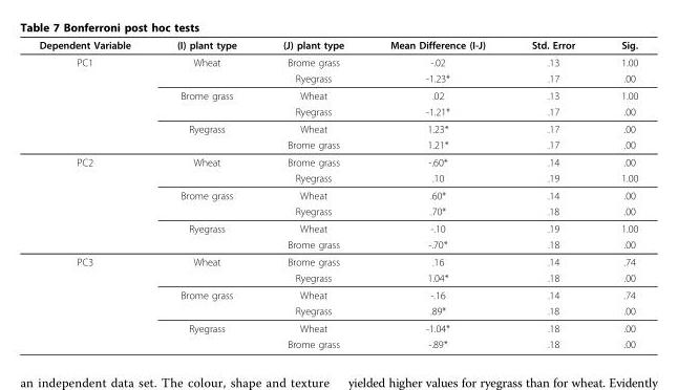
<table><thead><tr><td>Dependent Variable</td><td>(I) plant type</td><td>(J) plant type</td><td>Mean Difference (I-J)</td><td>Std. Error</td><td>Sig.</td></tr></thead><tbody><tr><td rowspan="6">PC1</td><td>Wheat</td><td>Brome grass</td><td>-.02</td><td>.13</td><td>1.00</td></tr><tr><td></td><td>Ryegrass</td><td>-1.23*</td><td>.17</td><td>.00</td></tr><tr><td>Brome grass</td><td>Wheat</td><td>.02</td><td>.13</td><td>1.00</td></tr><tr><td></td><td>Ryegrass</td><td>-1.21*</td><td>.17</td><td>.00</td></tr><tr><td>Ryegrass</td><td>Wheat</td><td>1.23*</td><td>.17</td><td>.00</td></tr><tr><td></td><td>Brome grass</td><td>1.21*</td><td>.17</td><td>.00</td></tr><tr><td rowspan="6">PC2</td><td>Wheat</td><td>Brome grass</td><td>-.60*</td><td>.14</td><td>.00</td></tr><tr><td></td><td>Ryegrass</td><td>.10</td><td>.19</td><td>1.00</td></tr><tr><td>Brome grass</td><td>Wheat</td><td>.60*</td><td>.14</td><td>.00</td></tr><tr><td></td><td>Ryegrass</td><td>.70*</td><td>.18</td><td>.00</td></tr><tr><td>Ryegrass</td><td>Wheat</td><td>-.10</td><td>.19</td><td>1.00</td></tr><tr><td></td><td>Brome grass</td><td>-.70*</td><td>.18</td><td>.00</td></tr><tr><td rowspan="6">PC3</td><td>Wheat</td><td>Brome grass</td><td>.16</td><td>.14</td><td>.74</td></tr><tr><td></td><td>Ryegrass</td><td>1.04*</td><td>.18</td><td>.00</td></tr><tr><td>Brome grass</td><td>Wheat</td><td>-.16</td><td>.14</td><td>.74</td></tr><tr><td></td><td>Ryegrass</td><td>.89*</td><td>.18</td><td>.00</td></tr><tr><td>Ryegrass</td><td>Wheat</td><td>-1.04*</td><td>.18</td><td>.00</td></tr><tr><td></td><td>Brome grass</td><td>-.89*</td><td>.18</td><td>.00</td></tr></tbody></table>